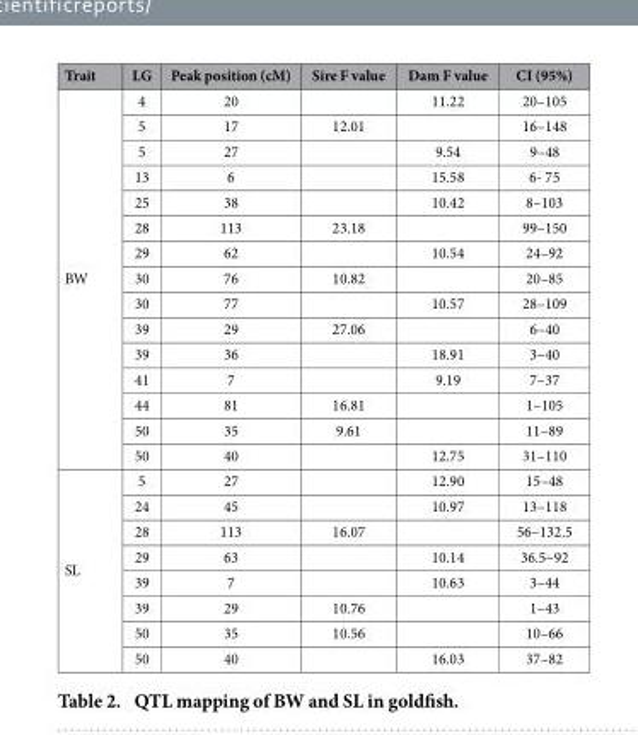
<table><thead><tr><td>Trait</td><td>LG</td><td>Peak position (cM)</td><td>Sire F value</td><td>Dam F value</td><td>CI (95%)</td></tr></thead><tbody><tr><td rowspan="15">BW</td><td>4</td><td>20</td><td></td><td>11.22</td><td>20–105</td></tr><tr><td>5</td><td>17</td><td>12.01</td><td></td><td>16–148</td></tr><tr><td>5</td><td>27</td><td></td><td>9.54</td><td>9–48</td></tr><tr><td>13</td><td>6</td><td></td><td>15.58</td><td>6- 75</td></tr><tr><td>25</td><td>38</td><td></td><td>10.42</td><td>8–103</td></tr><tr><td>28</td><td>113</td><td>23.18</td><td></td><td>99–150</td></tr><tr><td>29</td><td>62</td><td></td><td>10.54</td><td>24–92</td></tr><tr><td>30</td><td>76</td><td>10.82</td><td></td><td>20–85</td></tr><tr><td>30</td><td>77</td><td></td><td>10.57</td><td>28–109</td></tr><tr><td>39</td><td>29</td><td>27.06</td><td></td><td>6–40</td></tr><tr><td>39</td><td>36</td><td></td><td>18.91</td><td>3–40</td></tr><tr><td>41</td><td>7</td><td></td><td>9.19</td><td>7–37</td></tr><tr><td>44</td><td>81</td><td>16.81</td><td></td><td>1–105</td></tr><tr><td>50</td><td>35</td><td>9.61</td><td></td><td>11–89</td></tr><tr><td>50</td><td>40</td><td></td><td>12.75</td><td>31–110</td></tr><tr><td rowspan="8">SL</td><td>5</td><td>27</td><td></td><td>12.90</td><td>15–48</td></tr><tr><td>24</td><td>45</td><td></td><td>10.97</td><td>13–118</td></tr><tr><td>28</td><td>113</td><td>16.07</td><td></td><td>56–132.5</td></tr><tr><td>29</td><td>63</td><td></td><td>10.14</td><td>36.5–92</td></tr><tr><td>39</td><td>7</td><td></td><td>10.63</td><td>3–44</td></tr><tr><td>39</td><td>29</td><td>10.76</td><td></td><td>1–43</td></tr><tr><td>50</td><td>35</td><td>10.56</td><td></td><td>10–66</td></tr><tr><td>50</td><td>40</td><td></td><td>16.03</td><td>37–82</td></tr></tbody></table>